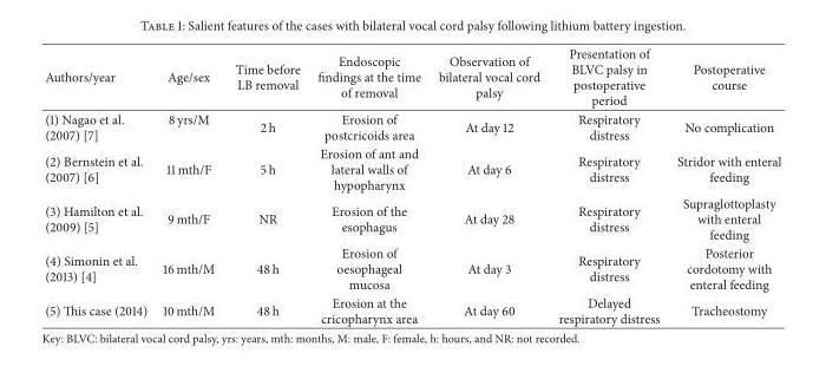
<table><thead><tr><td>Authors/year</td><td>Age/sex</td><td>Time before LB removal</td><td>Endoscopic findings at the time of removal</td><td>Observation of bilateral vocal cord palsy</td><td>Presentation of BLVC palsy in postoperative period</td><td>Postoperative course</td></tr></thead><tbody><tr><td>(1) Nagao et al. (2007) [7]</td><td>8 yrs/M</td><td>2 h</td><td>Erosion of postcricoids area</td><td>At day 12</td><td>Respiratory distress</td><td>No complication</td></tr><tr><td>(2) Bernstein et al. (2007) [6]</td><td>11 mth/F</td><td>5 h</td><td>Erosion of ant and lateral walls of hypopharynx</td><td>At day 6</td><td>Respiratory distress</td><td>Stridor with enteral feeding</td></tr><tr><td>(3) Hamilton et al. (2009) [5]</td><td>9 mth/F</td><td>NR</td><td>Erosion of the esophagus</td><td>At day 28</td><td>Respiratory distress</td><td>Supraglottoplasty with enteral feeding</td></tr><tr><td>(4) Simonin et al. (2013) [4]</td><td>16 mth/M</td><td>48 h</td><td>Erosion of oesophageal mucosa</td><td>At day 3</td><td>Respiratory distress</td><td>Posterior cordotomy with enteral feeding</td></tr><tr><td>(5) This case (2014)</td><td>10 mth/M</td><td>48 h</td><td>Erosion at the cricopharynx area</td><td>At day 60</td><td>Delayed respiratory distress</td><td>Tracheostomy</td></tr></tbody></table>